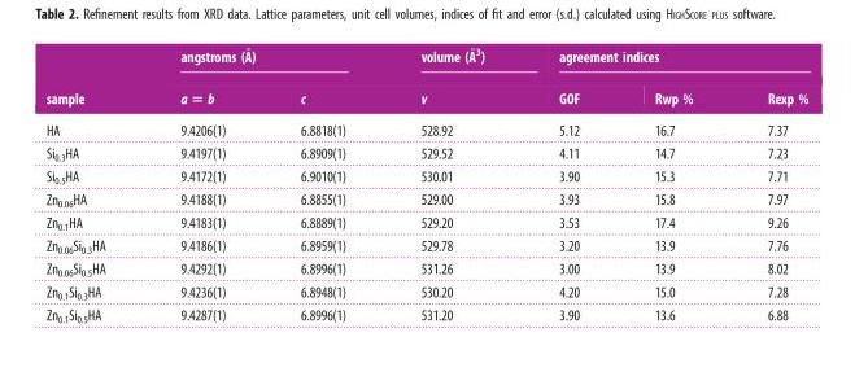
<table><thead><tr><td rowspan="2">sample</td><td colspan="2">angstroms (A˚)</td><td rowspan="2">volume (A˚3) v</td><td colspan="3">agreement indices</td></tr><tr><td>a = b</td><td>c</td><td>GOF</td><td>Rwp %</td><td>Rexp %</td></tr></thead><tbody><tr><td>HA</td><td>9.4206(1)</td><td>6.8818(1)</td><td>528.92</td><td>5.12</td><td>16.7</td><td>7.37</td></tr><tr><td>Si<sub>0.3</sub>HA</td><td>9.4197(1)</td><td>6.8909(1)</td><td>529.52</td><td>4.11</td><td>14.7</td><td>7.23</td></tr><tr><td>Si<sub>0.5</sub>HA</td><td>9.4172(1)</td><td>6.9010(1)</td><td>530.01</td><td>3.90</td><td>15.3</td><td>7.71</td></tr><tr><td>Zn<sub>0.06</sub>HA</td><td>9.4188(1)</td><td>6.8855(1)</td><td>529.00</td><td>3.93</td><td>15.8</td><td>7.97</td></tr><tr><td>Zn<sub>0.1</sub>HA</td><td>9.4183(1)</td><td>6.8889(1)</td><td>529.20</td><td>3.53</td><td>17.4</td><td>9.26</td></tr><tr><td>Zn<sub>0.06</sub>Si<sub>0.3</sub>HA</td><td>9.4186(1)</td><td>6.8959(1)</td><td>529.78</td><td>3.20</td><td>13.9</td><td>7.76</td></tr><tr><td>Zn<sub>0.06</sub>Si<sub>0.5</sub>HA</td><td>9.4292(1)</td><td>6.8996(1)</td><td>531.26</td><td>3.00</td><td>13.9</td><td>8.02</td></tr><tr><td>Zn<sub>0.1</sub>Si<sub>0.3</sub>HA</td><td>9.4236(1)</td><td>6.8948(1)</td><td>530.20</td><td>4.20</td><td>15.0</td><td>7.28</td></tr><tr><td>Zn<sub>0.1</sub>Si<sub>0.5</sub>HA</td><td>9.4287(1)</td><td>6.8996(1)</td><td>531.20</td><td>3.90</td><td>13.6</td><td>6.88</td></tr></tbody></table>